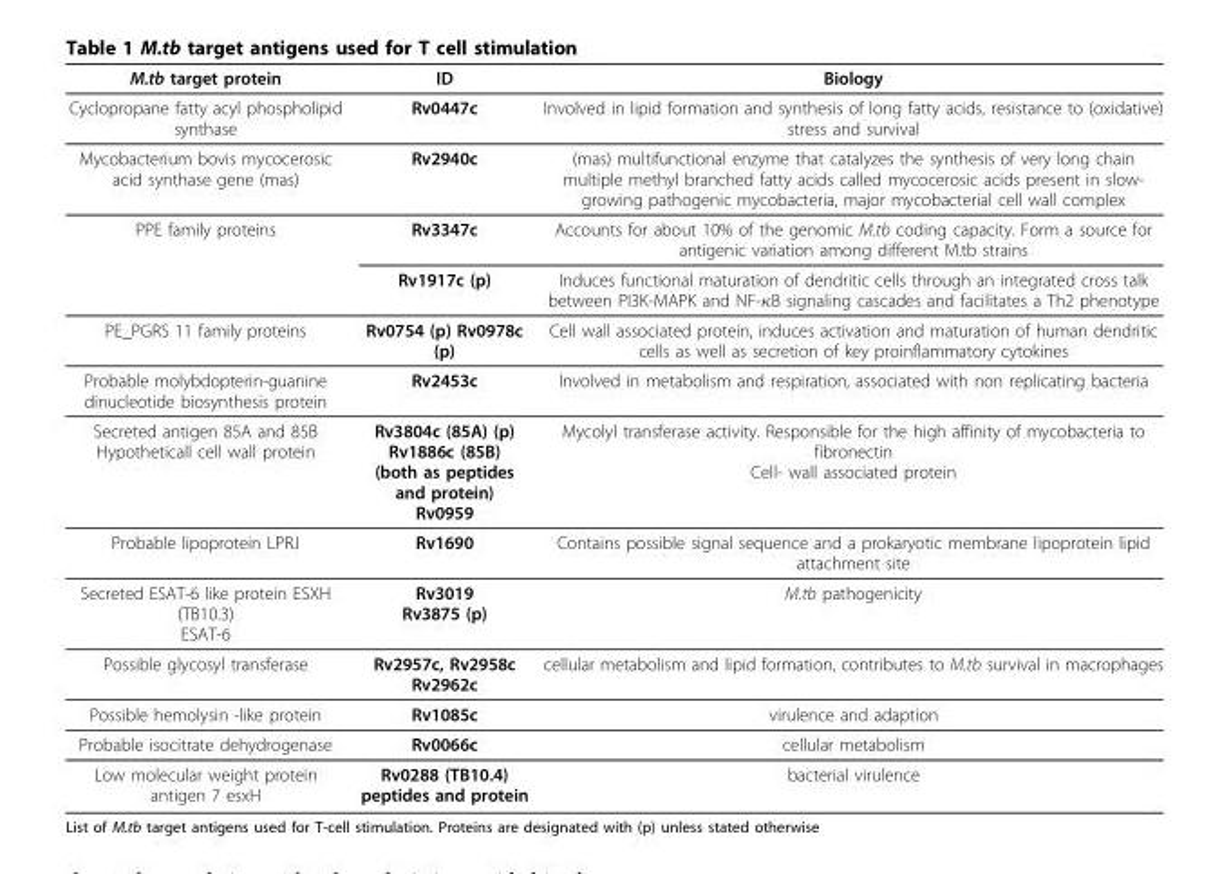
<table><thead><tr><td>M.tb target protein</td><td>ID</td><td>Biology</td></tr></thead><tbody><tr><td>Cyclopropane fatty acyl phospholipid synthase</td><td>Rv0447c</td><td>Involved in lipid formation and synthesis of long fatty acids, resistance to (oxidative) stress and survival</td></tr><tr><td>Mycobacterium bovis mycocerosic acid synthase gene (mas)</td><td>Rv2940c</td><td>(mas) multifunctional enzyme that catalyzes the synthesis of very long chain multiple methyl branched fatty acids called mycocerosic acids present in slow- growing pathogenic mycobacteria, major mycobacterial cell wall complex</td></tr><tr><td rowspan="2">PPE family proteins</td><td>Rv3347c</td><td>Accounts for about 10% of the genomic M.tb coding capacity. Form a source for antigenic variation among different M.tb strains</td></tr><tr><td>Rv1917c (p)</td><td>Induces functional maturation of dendritic cells through an integrated cross talk between PI3K-MAPK and NF-κB signaling cascades and facilitates a Th2 phenotype</td></tr><tr><td>PE_PGRS 11 family proteins</td><td>Rv0754 (p) Rv0978c (p)</td><td>Cell wall associated protein, induces activation and maturation of human dendritic cells as well as secretion of key proinflammatory cytokines</td></tr><tr><td>Probable molybdopterin-guanine dinucleotide biosynthesis protein</td><td>Rv2453c</td><td>Involved in metabolism and respiration, associated with non replicating bacteria</td></tr><tr><td>Secreted antigen 85A and 85B Hypotheticall cell wall protein</td><td>Rv3804c (85A) (p) Rv1886c (85B) (both as peptides and protein) Rv0959</td><td>Mycolyl transferase activity. Responsible for the high affinity of mycobacteria to fibronectin Cell- wall associated protein</td></tr><tr><td>Probable lipoprotein LPRJ</td><td>Rv1690</td><td>Contains possible signal sequence and a prokaryotic membrane lipoprotein lipid attachment site</td></tr><tr><td>Secreted ESAT-6 like protein ESXH (TB10.3) ESAT-6</td><td>Rv3019 Rv3875 (p)</td><td>M.tb pathogenicity</td></tr><tr><td>Possible glycosyl transferase</td><td>Rv2957c, Rv2958c Rv2962c</td><td>cellular metabolism and lipid formation, contributes to M.tb survival in macrophages</td></tr><tr><td>Possible hemolysin -like protein</td><td>Rv1085c</td><td>virulence and adaption</td></tr><tr><td>Probable isocitrate dehydrogenase</td><td>Rv0066c</td><td>cellular metabolism</td></tr><tr><td>Low molecular weight protein antigen 7 esxH</td><td>Rv0288 (TB10.4) peptides and protein</td><td>bacterial virulence</td></tr></tbody></table>